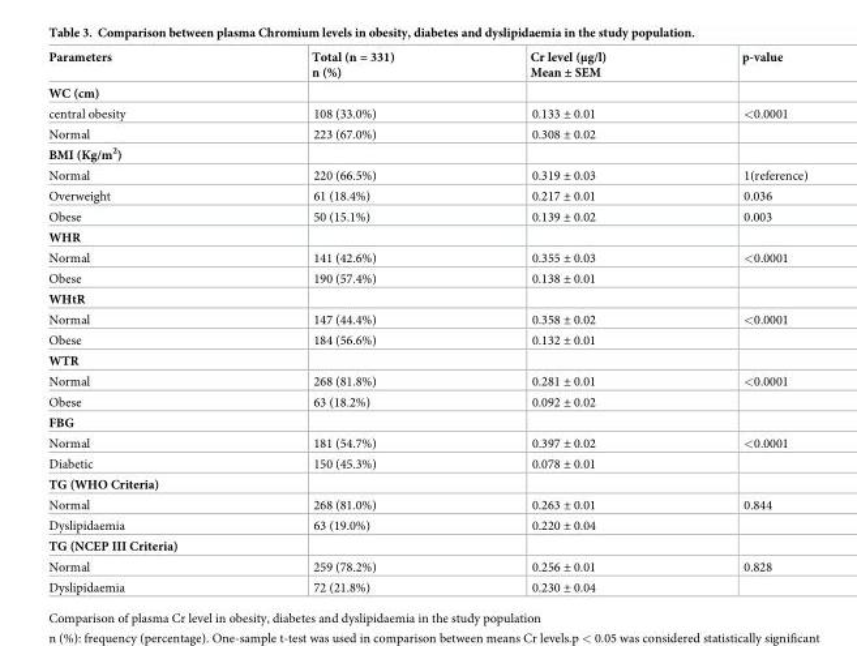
<table><thead><tr><td>Parameters</td><td>Total (n = 331) n (%)</td><td>Cr level (μg/l) Mean ± SEM</td><td>p-value</td></tr></thead><tbody><tr><td colspan="4">WC (cm)</td></tr><tr><td>central obesity</td><td>108 (33.0%)</td><td>0.133 ± 0.01</td><td>&lt;0.0001</td></tr><tr><td>Normal</td><td>223 (67.0%)</td><td>0.308 ± 0.02</td><td></td></tr><tr><td colspan="4">BMI (Kg/m<sup>2</sup>)</td></tr><tr><td>Normal</td><td>220 (66.5%)</td><td>0.319 ± 0.03</td><td>1(reference)</td></tr><tr><td>Overweight</td><td>61 (18.4%)</td><td>0.217 ± 0.01</td><td>0.036</td></tr><tr><td>Obese</td><td>50 (15.1%)</td><td>0.139 ± 0.02</td><td>0.003</td></tr><tr><td colspan="4">WHR</td></tr><tr><td>Normal</td><td>141 (42.6%)</td><td>0.355 ± 0.03</td><td>&lt;0.0001</td></tr><tr><td>Obese</td><td>190 (57.4%)</td><td>0.138 ± 0.01</td><td></td></tr><tr><td colspan="4">WHtR</td></tr><tr><td>Normal</td><td>147 (44.4%)</td><td>0.358 ± 0.02</td><td>&lt;0.0001</td></tr><tr><td>Obese</td><td>184 (56.6%)</td><td>0.132 ± 0.01</td><td></td></tr><tr><td colspan="4">WTR</td></tr><tr><td>Normal</td><td>268 (81.8%)</td><td>0.281 ± 0.01</td><td>&lt;0.0001</td></tr><tr><td>Obese</td><td>63 (18.2%)</td><td>0.092 ± 0.02</td><td></td></tr><tr><td colspan="4">FBG</td></tr><tr><td>Normal</td><td>181 (54.7%)</td><td>0.397 ± 0.02</td><td>&lt;0.0001</td></tr><tr><td>Diabetic</td><td>150 (45.3%)</td><td>0.078 ± 0.01</td><td></td></tr><tr><td colspan="4">TG (WHO Criteria)</td></tr><tr><td>Normal</td><td>268 (81.0%)</td><td>0.263 ± 0.01</td><td>0.844</td></tr><tr><td>Dyslipidaemia</td><td>63 (19.0%)</td><td>0.220 ± 0.04</td><td></td></tr><tr><td colspan="4">TG (NCEP III Criteria)</td></tr><tr><td>Normal</td><td>259 (78.2%)</td><td>0.256 ± 0.01</td><td>0.828</td></tr><tr><td>Dyslipidaemia</td><td>72 (21.8%)</td><td>0.230 ± 0.04</td><td></td></tr></tbody></table>